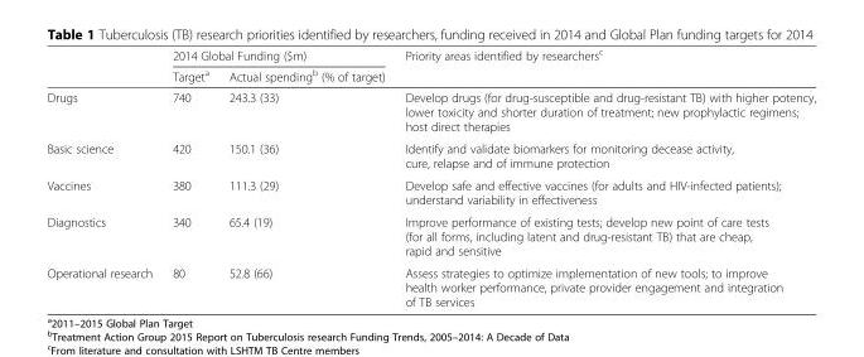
<table><thead><tr><td rowspan="2"></td><td colspan="2">2014 Global Funding ($m)</td><td rowspan="2">Priority areas identified by researchers<sup>c</sup></td></tr><tr><td>Target<sup>a</sup></td><td>Actual spending<sup>b</sup> (% of target)</td></tr></thead><tbody><tr><td>Drugs</td><td>740</td><td>243.3 (33)</td><td>Develop drugs (for drug-susceptible and drug-resistant TB) with higher potency, lower toxicity and shorter duration of treatment; new prophylactic regimens; host direct therapies</td></tr><tr><td>Basic science</td><td>420</td><td>150.1 (36)</td><td>Identify and validate biomarkers for monitoring decease activity, cure, relapse and of immune protection</td></tr><tr><td>Vaccines</td><td>380</td><td>111.3 (29)</td><td>Develop safe and effective vaccines (for adults and HIV-infected patients); understand variability in effectiveness</td></tr><tr><td>Diagnostics</td><td>340</td><td>65.4 (19)</td><td>Improve performance of existing tests; develop new point of care tests (for all forms, including latent and drug-resistant TB) that are cheap, rapid and sensitive</td></tr><tr><td>Operational research</td><td>80</td><td>52.8 (66)</td><td>Assess strategies to optimize implementation of new tools; to improve health worker performance, private provider engagement and integration of TB services</td></tr></tbody></table>